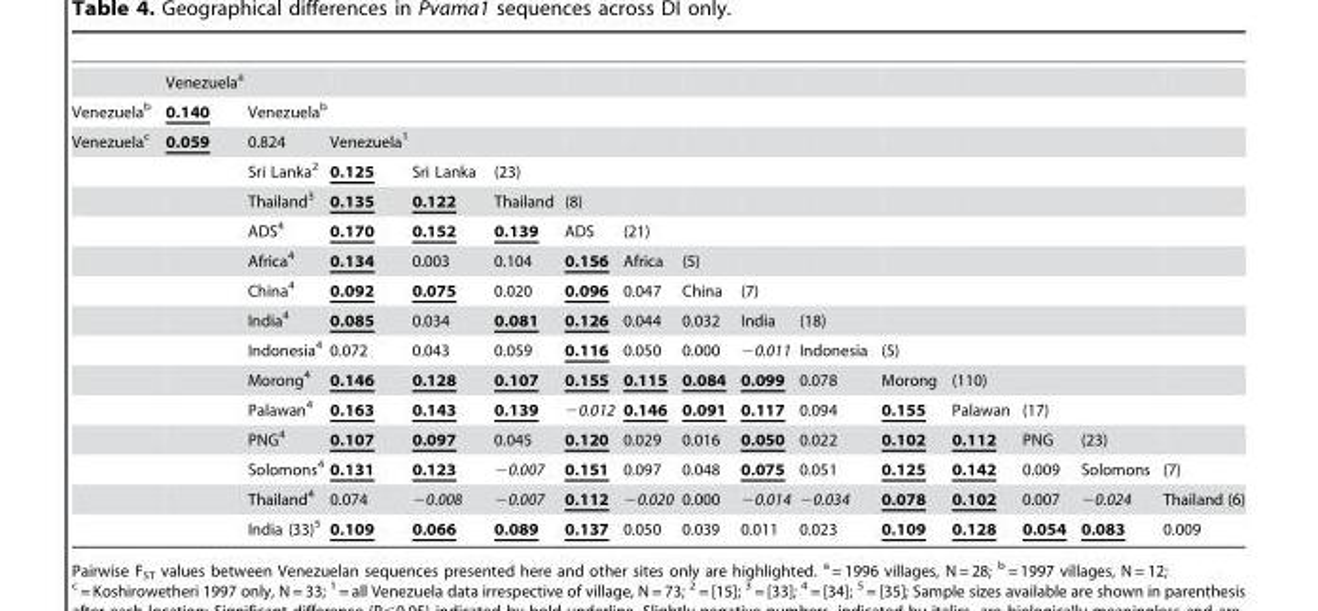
<table><thead><tr><td></td><td>Venezuela<sup>a</sup></td><td></td><td></td><td></td><td></td><td></td><td></td><td></td><td></td><td></td><td></td><td></td><td></td><td></td><td></td></tr></thead><tbody><tr><td>Venezuela<sup>b</sup></td><td>0.140</td><td>Venezuela<sup>b</sup></td><td></td><td></td><td></td><td></td><td></td><td></td><td></td><td></td><td></td><td></td><td></td><td></td><td></td></tr><tr><td rowspan="14">Venezuela<sup>c</sup></td><td>0.059</td><td>0.824</td><td>Venezuela<sup>1</sup></td><td></td><td></td><td></td><td></td><td></td><td></td><td></td><td></td><td></td><td></td><td></td><td></td></tr><tr><td></td><td>Sri Lanka<sup>2</sup></td><td>0.125</td><td>Sri Lanka</td><td>(23)</td><td></td><td></td><td></td><td></td><td></td><td></td><td></td><td></td><td></td><td></td></tr><tr><td></td><td>Thailand<sup>3</sup></td><td>0.135</td><td>0.122</td><td>Thailand</td><td>(8)</td><td></td><td></td><td></td><td></td><td></td><td></td><td></td><td></td><td></td></tr><tr><td></td><td>ADS<sup>4</sup></td><td>0.170</td><td>0.152</td><td>0.139</td><td>ADS</td><td>(21)</td><td></td><td></td><td></td><td></td><td></td><td></td><td></td><td></td></tr><tr><td></td><td>Africa<sup>4</sup></td><td>0.134</td><td>0.003</td><td>0.104</td><td>0.156</td><td>Africa</td><td>(5)</td><td></td><td></td><td></td><td></td><td></td><td></td><td></td></tr><tr><td></td><td>China<sup>4</sup></td><td>0.092</td><td>0.075</td><td>0.020</td><td>0.096</td><td>0.047</td><td>China</td><td>(7)</td><td></td><td></td><td></td><td></td><td></td><td></td></tr><tr><td></td><td>India<sup>4</sup></td><td>0.085</td><td>0.034</td><td>0.081</td><td>0.126</td><td>0.044</td><td>0.032</td><td>India</td><td>(18)</td><td></td><td></td><td></td><td></td><td></td></tr><tr><td></td><td>Indonesia<sup>4</sup></td><td>0.072</td><td>0.043</td><td>0.059</td><td>0.116</td><td>0.050</td><td>0.000</td><td>−0.011</td><td>Indonesia</td><td>(5)</td><td></td><td></td><td></td><td></td></tr><tr><td></td><td>Morong<sup>4</sup></td><td>0.146</td><td>0.128</td><td>0.107</td><td>0.155</td><td>0.115</td><td>0.084</td><td>0.099</td><td>0.078</td><td>Morong</td><td>(110)</td><td></td><td></td><td></td></tr><tr><td></td><td>Palawan<sup>4</sup></td><td>0.163</td><td>0.143</td><td>0.139</td><td>−0.012</td><td>0.146</td><td>0.091</td><td>0.117</td><td>0.094</td><td>0.155</td><td>Palawan</td><td>(17)</td><td></td><td></td></tr><tr><td></td><td>PNG<sup>4</sup></td><td>0.107</td><td>0.097</td><td>0.045</td><td>0.120</td><td>0.029</td><td>0.016</td><td>0.050</td><td>0.022</td><td>0.102</td><td>0.112</td><td>PNG</td><td>(23)</td><td></td></tr><tr><td></td><td>Solomons<sup>4</sup></td><td>0.131</td><td>0.123</td><td>−0.007</td><td>0.151</td><td>0.097</td><td>0.048</td><td>0.075</td><td>0.051</td><td>0.125</td><td>0.142</td><td>0.009</td><td>Solomons</td><td>(7)</td></tr><tr><td></td><td>Thailand<sup>4</sup></td><td>0.074</td><td>−0.008</td><td>−0.007</td><td>0.112</td><td>−0.020</td><td>0.000</td><td>−0.014</td><td>−0.034</td><td>0.078</td><td>0.102</td><td>0.007</td><td>−0.024</td><td>Thailand (6)</td></tr><tr><td></td><td>India (33)<sup>5</sup></td><td>0.109</td><td>0.066</td><td>0.089</td><td>0.137</td><td>0.050</td><td>0.039</td><td>0.011</td><td>0.023</td><td>0.109</td><td>0.128</td><td>0.054</td><td>0.083</td><td>0.009</td></tr></tbody></table>